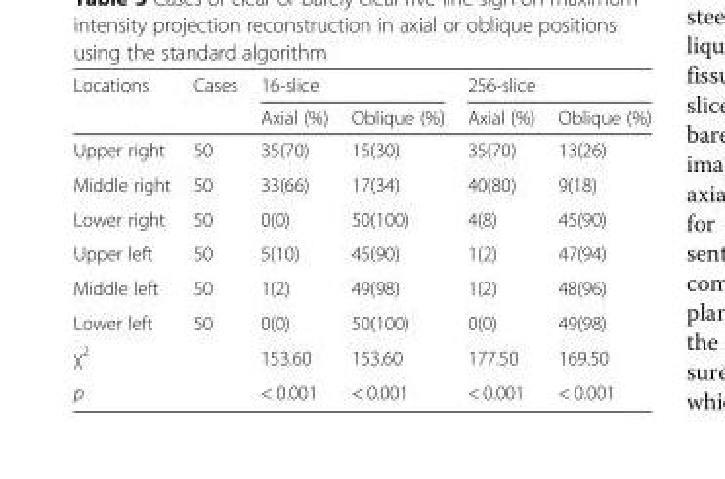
<table><thead><tr><td rowspan="2">Locations</td><td rowspan="2">Cases</td><td colspan="2">16-slice</td><td colspan="2">256-slice</td></tr><tr><td>Axial (%)</td><td>Oblique (%)</td><td>Axial (%)</td><td>Oblique (%)</td></tr></thead><tbody><tr><td>Upper right</td><td>50</td><td>35(70)</td><td>15(30)</td><td>35(70)</td><td>13(26)</td></tr><tr><td>Middle right</td><td>50</td><td>33(66)</td><td>17(34)</td><td>40(80)</td><td>9(18)</td></tr><tr><td>Lower right</td><td>50</td><td>0(0)</td><td>50(100)</td><td>4(8)</td><td>45(90)</td></tr><tr><td>Upper left</td><td>50</td><td>5(10)</td><td>45(90)</td><td>1(2)</td><td>47(94)</td></tr><tr><td>Middle left</td><td>50</td><td>1(2)</td><td>49(98)</td><td>1(2)</td><td>48(96)</td></tr><tr><td>Lower left</td><td>50</td><td>0(0)</td><td>50(100)</td><td>0(0)</td><td>49(98)</td></tr><tr><td>χ<sup>2</sup></td><td></td><td>153.60</td><td>153.60</td><td>177.50</td><td>169.50</td></tr><tr><td>p</td><td></td><td>&lt; 0.001</td><td>&lt; 0.001</td><td>&lt; 0.001</td><td>&lt; 0.001</td></tr></tbody></table>